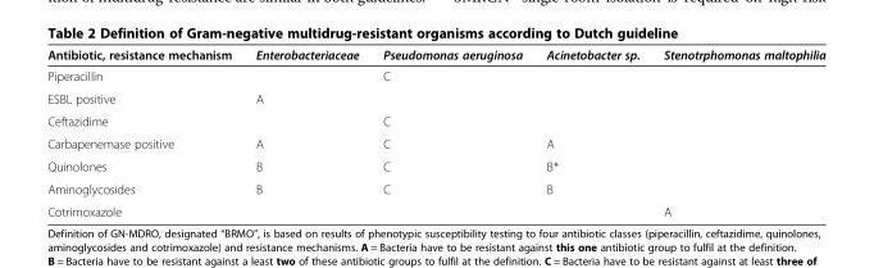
<table><thead><tr><td>Antibiotic, resistance mechanism</td><td>Enterobacteriaceae</td><td>Pseudomonas aeruginosa</td><td>Acinetobacter sp.</td><td>Stenotrphomonas maltophilia</td></tr></thead><tbody><tr><td>Piperacillin</td><td></td><td>C</td><td></td><td></td></tr><tr><td>ESBL positive</td><td>A</td><td></td><td></td><td></td></tr><tr><td>Ceftazidime</td><td></td><td>C</td><td></td><td></td></tr><tr><td>Carbapenemase positive</td><td>A</td><td>C</td><td>A</td><td></td></tr><tr><td>Quinolones</td><td>B</td><td>C</td><td>B*</td><td></td></tr><tr><td>Aminoglycosides</td><td>B</td><td>C</td><td>B</td><td></td></tr><tr><td>Cotrimoxazole</td><td></td><td></td><td></td><td>A</td></tr></tbody></table>